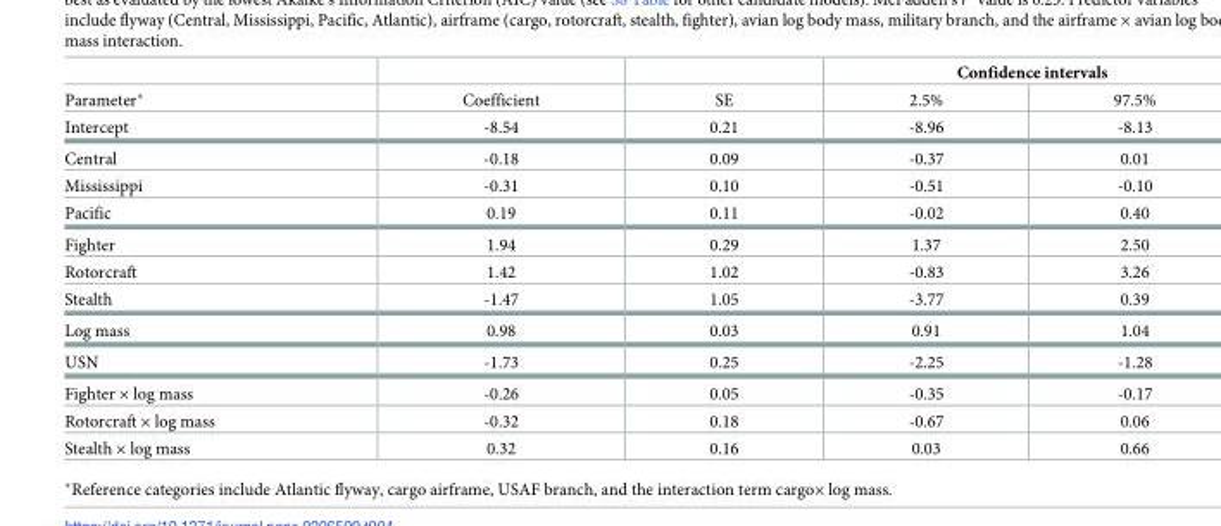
<table><thead><tr><td rowspan="2">Parameter*</td><td rowspan="2">Coefficient</td><td rowspan="2">SE</td><td colspan="2">Confidence intervals</td></tr><tr><td>2.5%</td><td>97.5%</td></tr></thead><tbody><tr><td>Intercept</td><td>-8.54</td><td>0.21</td><td>-8.96</td><td>-8.13</td></tr><tr><td>Central</td><td>-0.18</td><td>0.09</td><td>-0.37</td><td>0.01</td></tr><tr><td>Mississippi</td><td>-0.31</td><td>0.10</td><td>-0.51</td><td>-0.10</td></tr><tr><td>Pacific</td><td>0.19</td><td>0.11</td><td>-0.02</td><td>0.40</td></tr><tr><td>Fighter</td><td>1.94</td><td>0.29</td><td>1.37</td><td>2.50</td></tr><tr><td>Rotorcraft</td><td>1.42</td><td>1.02</td><td>-0.83</td><td>3.26</td></tr><tr><td>Stealth</td><td>-1.47</td><td>1.05</td><td>-3.77</td><td>0.39</td></tr><tr><td>Log mass</td><td>0.98</td><td>0.03</td><td>0.91</td><td>1.04</td></tr><tr><td>USN</td><td>-1.73</td><td>0.25</td><td>-2.25</td><td>-1.28</td></tr><tr><td>Fighter × log mass</td><td>-0.26</td><td>0.05</td><td>-0.35</td><td>-0.17</td></tr><tr><td>Rotorcraft × log mass</td><td>-0.32</td><td>0.18</td><td>-0.67</td><td>0.06</td></tr><tr><td>Stealth × log mass</td><td>0.32</td><td>0.16</td><td>0.03</td><td>0.66</td></tr></tbody></table>